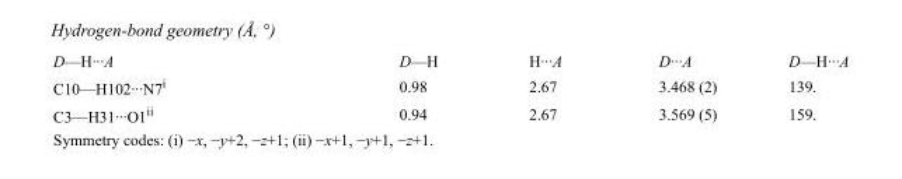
<table><tbody><tr><td>D—H···A</td><td>D—H</td><td>H···A</td><td>D···A</td><td>D—H···A</td></tr><tr><td>C10—H102···N7<sup>i</sup></td><td>0.98</td><td>2.67</td><td>3.468 (2)</td><td>139.</td></tr><tr><td>C3—H31···O1<sup>ii</sup></td><td>0.94</td><td>2.67</td><td>3.569 (5)</td><td>159.</td></tr></tbody></table>